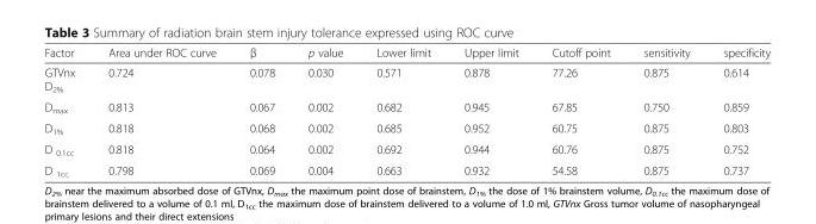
<table><thead><tr><td>Factor</td><td>Area under ROC curve</td><td>β</td><td>p value</td><td>Lower limit</td><td>Upper limit</td><td>Cutoff point</td><td>sensitivity</td><td>specificity</td></tr></thead><tbody><tr><td>GTVnx D<sub>2%</sub></td><td>0.724</td><td>0.078</td><td>0.030</td><td>0.571</td><td>0.878</td><td>77.26</td><td>0.875</td><td>0.614</td></tr><tr><td>D<sub>max</sub></td><td>0.813</td><td>0.067</td><td>0.002</td><td>0.682</td><td>0.945</td><td>67.85</td><td>0.750</td><td>0.859</td></tr><tr><td>D<sub>1%</sub></td><td>0.818</td><td>0.068</td><td>0.002</td><td>0.685</td><td>0.952</td><td>60.75</td><td>0.875</td><td>0.803</td></tr><tr><td>D <sub>0.1cc</sub></td><td>0.818</td><td>0.064</td><td>0.002</td><td>0.692</td><td>0.944</td><td>60.76</td><td>0.875</td><td>0.752</td></tr><tr><td>D <sub>1cc</sub></td><td>0.798</td><td>0.069</td><td>0.004</td><td>0.663</td><td>0.932</td><td>54.58</td><td>0.875</td><td>0.737</td></tr></tbody></table>